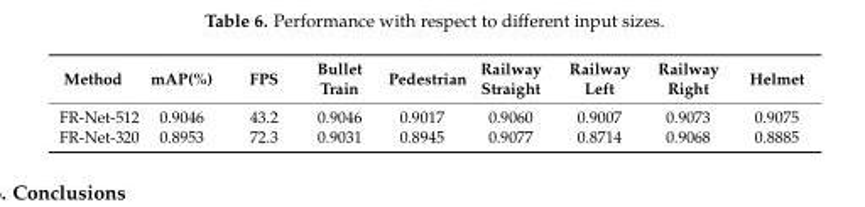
<table><thead><tr><td>Method</td><td>mAP(%)</td><td>FPS</td><td>Bullet Train</td><td>Pedestrian</td><td>Railway Straight</td><td>Railway Left</td><td>Railway Right</td><td>Helmet</td></tr></thead><tbody><tr><td>FR-Net-512</td><td>0.9046</td><td>43.2</td><td>0.9046</td><td>0.9017</td><td>0.9060</td><td>0.9007</td><td>0.9073</td><td>0.9075</td></tr><tr><td>FR-Net-320</td><td>0.8953</td><td>72.3</td><td>0.9031</td><td>0.8945</td><td>0.9077</td><td>0.8714</td><td>0.9068</td><td>0.8885</td></tr></tbody></table>